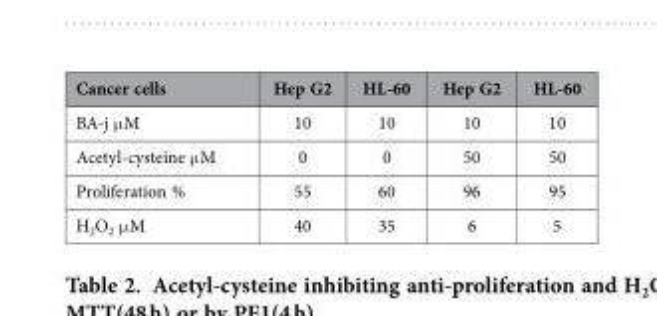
<table><thead><tr><td>Cancer cells</td><td>Hep G2</td><td>HL-60</td><td>Hep G2</td><td>HL-60</td></tr></thead><tbody><tr><td>BA-j μ M</td><td>10</td><td>10</td><td>10</td><td>10</td></tr><tr><td>Acetyl-cysteine μ M</td><td>0</td><td>0</td><td>50</td><td>50</td></tr><tr><td>Proliferation %</td><td>55</td><td>60</td><td>96</td><td>95</td></tr><tr><td>H<sub>2</sub>O<sub>2</sub> μ M</td><td>40</td><td>35</td><td>6</td><td>5</td></tr></tbody></table>